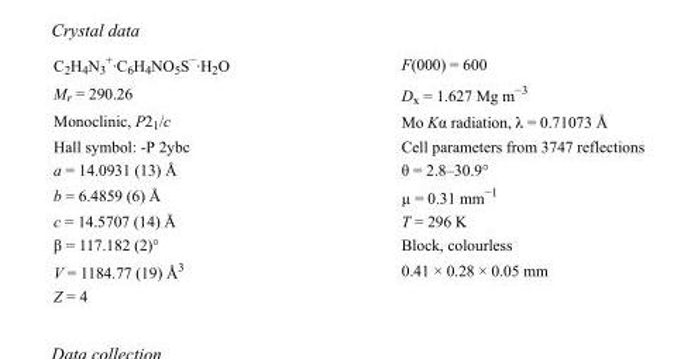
<table><tbody><tr><td>C<sub>2</sub>H<sub>4</sub>N<sub>3</sub> <sup>+</sup>·C<sub>6</sub>H<sub>4</sub>NO<sub>5</sub>S<sup>−</sup>·H<sub>2</sub>O</td><td>F(000) = 600</td></tr><tr><td>M<sub>r</sub> = 290.26</td><td>D<sub>x</sub> = 1.627 Mg m<sup>−3</sup></td></tr><tr><td>Monoclinic, P2<sub>1</sub>/c</td><td>Mo Kα radiation, λ = 0.71073 Å</td></tr><tr><td>Hall symbol: -P 2ybc</td><td>Cell parameters from 3747 reflections</td></tr><tr><td>a = 14.0931 (13) Å</td><td>θ = 2.8–30.9°</td></tr><tr><td>b = 6.4859 (6) Å</td><td>µ = 0.31 mm<sup>−1</sup></td></tr><tr><td>c = 14.5707 (14) Å</td><td>T = 296 K</td></tr><tr><td>β = 117.182 (2)°</td><td>Block, colourless</td></tr><tr><td>V = 1184.77 (19) Å<sup>3</sup></td><td>0.41 × 0.28 × 0.05 mm</td></tr><tr><td>Z = 4</td><td></td></tr></tbody></table>